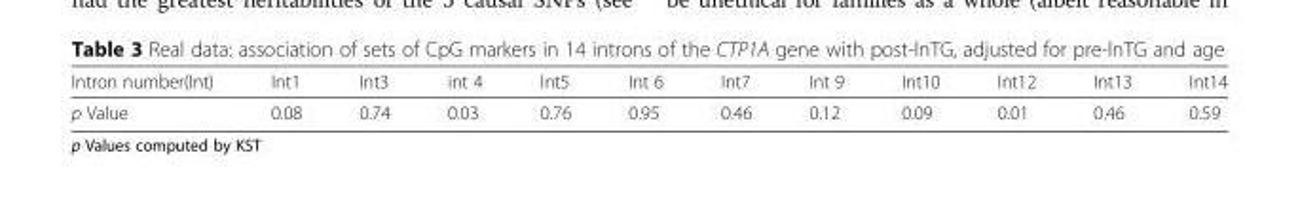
<table><thead><tr><td>Intron number(Int)</td><td>Int1</td><td>Int3</td><td>int 4</td><td>Int5</td><td>Int 6</td><td>Int7</td><td>Int 9</td><td>Int10</td><td>Int12</td><td>Int13</td><td>Int14</td></tr></thead><tbody><tr><td>p Value</td><td>0.08</td><td>0.74</td><td>0.03</td><td>0.76</td><td>0.95</td><td>0.46</td><td>0.12</td><td>0.09</td><td>0.01</td><td>0.46</td><td>0.59</td></tr></tbody></table>